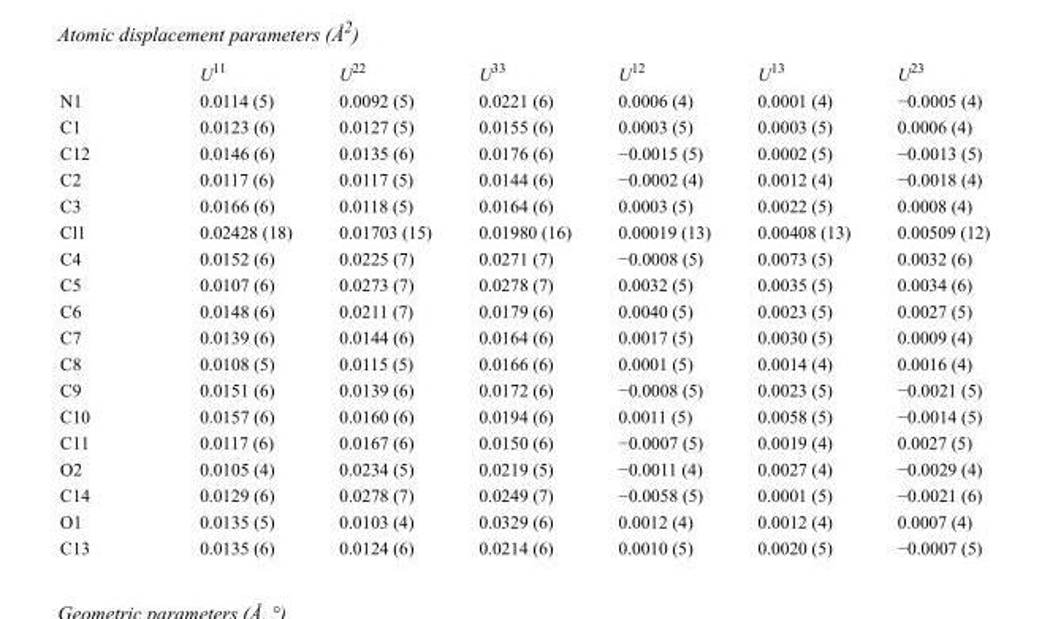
<table><thead><tr><td></td><td>U<sup>11</sup></td><td>U<sup>22</sup></td><td>U<sup>33</sup></td><td>U<sup>12</sup></td><td>U<sup>13</sup></td><td>U<sup>23</sup></td></tr></thead><tbody><tr><td>N1</td><td>0.0114 (5)</td><td>0.0092 (5)</td><td>0.0221 (6)</td><td>0.0006 (4)</td><td>0.0001 (4)</td><td>−0.0005 (4)</td></tr><tr><td>C1</td><td>0.0123 (6)</td><td>0.0127 (5)</td><td>0.0155 (6)</td><td>0.0003 (5)</td><td>0.0003 (5)</td><td>0.0006 (4)</td></tr><tr><td>C12</td><td>0.0146 (6)</td><td>0.0135 (6)</td><td>0.0176 (6)</td><td>−0.0015 (5)</td><td>0.0002 (5)</td><td>−0.0013 (5)</td></tr><tr><td>C2</td><td>0.0117 (6)</td><td>0.0117 (5)</td><td>0.0144 (6)</td><td>−0.0002 (4)</td><td>0.0012 (4)</td><td>−0.0018 (4)</td></tr><tr><td>C3</td><td>0.0166 (6)</td><td>0.0118 (5)</td><td>0.0164 (6)</td><td>0.0003 (5)</td><td>0.0022 (5)</td><td>0.0008 (4)</td></tr><tr><td>Cl1</td><td>0.02428 (18)</td><td>0.01703 (15)</td><td>0.01980 (16)</td><td>0.00019 (13)</td><td>0.00408 (13)</td><td>0.00509 (12)</td></tr><tr><td>C4</td><td>0.0152 (6)</td><td>0.0225 (7)</td><td>0.0271 (7)</td><td>−0.0008 (5)</td><td>0.0073 (5)</td><td>0.0032 (6)</td></tr><tr><td>C5</td><td>0.0107 (6)</td><td>0.0273 (7)</td><td>0.0278 (7)</td><td>0.0032 (5)</td><td>0.0035 (5)</td><td>0.0034 (6)</td></tr><tr><td>C6</td><td>0.0148 (6)</td><td>0.0211 (7)</td><td>0.0179 (6)</td><td>0.0040 (5)</td><td>0.0023 (5)</td><td>0.0027 (5)</td></tr><tr><td>C7</td><td>0.0139 (6)</td><td>0.0144 (6)</td><td>0.0164 (6)</td><td>0.0017 (5)</td><td>0.0030 (5)</td><td>0.0009 (4)</td></tr><tr><td>C8</td><td>0.0108 (5)</td><td>0.0115 (5)</td><td>0.0166 (6)</td><td>0.0001 (5)</td><td>0.0014 (4)</td><td>0.0016 (4)</td></tr><tr><td>C9</td><td>0.0151 (6)</td><td>0.0139 (6)</td><td>0.0172 (6)</td><td>−0.0008 (5)</td><td>0.0023 (5)</td><td>−0.0021 (5)</td></tr><tr><td>C10</td><td>0.0157 (6)</td><td>0.0160 (6)</td><td>0.0194 (6)</td><td>0.0011 (5)</td><td>0.0058 (5)</td><td>−0.0014 (5)</td></tr><tr><td>C11</td><td>0.0117 (6)</td><td>0.0167 (6)</td><td>0.0150 (6)</td><td>−0.0007 (5)</td><td>0.0019 (4)</td><td>0.0027 (5)</td></tr><tr><td>O2</td><td>0.0105 (4)</td><td>0.0234 (5)</td><td>0.0219 (5)</td><td>−0.0011 (4)</td><td>0.0027 (4)</td><td>−0.0029 (4)</td></tr><tr><td>C14</td><td>0.0129 (6)</td><td>0.0278 (7)</td><td>0.0249 (7)</td><td>−0.0058 (5)</td><td>0.0001 (5)</td><td>−0.0021 (6)</td></tr><tr><td>O1</td><td>0.0135 (5)</td><td>0.0103 (4)</td><td>0.0329 (6)</td><td>0.0012 (4)</td><td>0.0012 (4)</td><td>0.0007 (4)</td></tr><tr><td>C13</td><td>0.0135 (6)</td><td>0.0124 (6)</td><td>0.0214 (6)</td><td>0.0010 (5)</td><td>0.0020 (5)</td><td>−0.0007 (5)</td></tr></tbody></table>